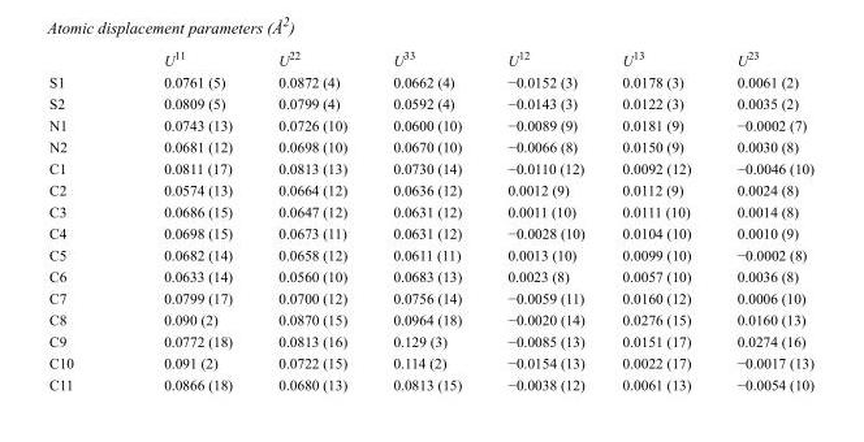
<table><thead><tr><td></td><td>U<sup>11</sup></td><td>U<sup>22</sup></td><td>U<sup>33</sup></td><td>U<sup>12</sup></td><td>U<sup>13</sup></td><td>U<sup>23</sup></td></tr></thead><tbody><tr><td>S1</td><td>0.0761 (5)</td><td>0.0872 (4)</td><td>0.0662 (4)</td><td>−0.0152 (3)</td><td>0.0178 (3)</td><td>0.0061 (2)</td></tr><tr><td>S2</td><td>0.0809 (5)</td><td>0.0799 (4)</td><td>0.0592 (4)</td><td>−0.0143 (3)</td><td>0.0122 (3)</td><td>0.0035 (2)</td></tr><tr><td>N1</td><td>0.0743 (13)</td><td>0.0726 (10)</td><td>0.0600 (10)</td><td>−0.0089 (9)</td><td>0.0181 (9)</td><td>−0.0002 (7)</td></tr><tr><td>N2</td><td>0.0681 (12)</td><td>0.0698 (10)</td><td>0.0670 (10)</td><td>−0.0066 (8)</td><td>0.0150 (9)</td><td>0.0030 (8)</td></tr><tr><td>C1</td><td>0.0811 (17)</td><td>0.0813 (13)</td><td>0.0730 (14)</td><td>−0.0110 (12)</td><td>0.0092 (12)</td><td>−0.0046 (10)</td></tr><tr><td>C2</td><td>0.0574 (13)</td><td>0.0664 (12)</td><td>0.0636 (12)</td><td>0.0012 (9)</td><td>0.0112 (9)</td><td>0.0024 (8)</td></tr><tr><td>C3</td><td>0.0686 (15)</td><td>0.0647 (12)</td><td>0.0631 (12)</td><td>0.0011 (10)</td><td>0.0111 (10)</td><td>0.0014 (8)</td></tr><tr><td>C4</td><td>0.0698 (15)</td><td>0.0673 (11)</td><td>0.0631 (12)</td><td>−0.0028 (10)</td><td>0.0104 (10)</td><td>0.0010 (9)</td></tr><tr><td>C5</td><td>0.0682 (14)</td><td>0.0658 (12)</td><td>0.0611 (11)</td><td>0.0013 (10)</td><td>0.0099 (10)</td><td>−0.0002 (8)</td></tr><tr><td>C6</td><td>0.0633 (14)</td><td>0.0560 (10)</td><td>0.0683 (13)</td><td>0.0023 (8)</td><td>0.0057 (10)</td><td>0.0036 (8)</td></tr><tr><td>C7</td><td>0.0799 (17)</td><td>0.0700 (12)</td><td>0.0756 (14)</td><td>−0.0059 (11)</td><td>0.0160 (12)</td><td>0.0006 (10)</td></tr><tr><td>C8</td><td>0.090 (2)</td><td>0.0870 (15)</td><td>0.0964 (18)</td><td>−0.0020 (14)</td><td>0.0276 (15)</td><td>0.0160 (13)</td></tr><tr><td>C9</td><td>0.0772 (18)</td><td>0.0813 (16)</td><td>0.129 (3)</td><td>−0.0085 (13)</td><td>0.0151 (17)</td><td>0.0274 (16)</td></tr><tr><td>C10</td><td>0.091 (2)</td><td>0.0722 (15)</td><td>0.114 (2)</td><td>−0.0154 (13)</td><td>0.0022 (17)</td><td>−0.0017 (13)</td></tr><tr><td>C11</td><td>0.0866 (18)</td><td>0.0680 (13)</td><td>0.0813 (15)</td><td>−0.0038 (12)</td><td>0.0061 (13)</td><td>−0.0054 (10)</td></tr></tbody></table>